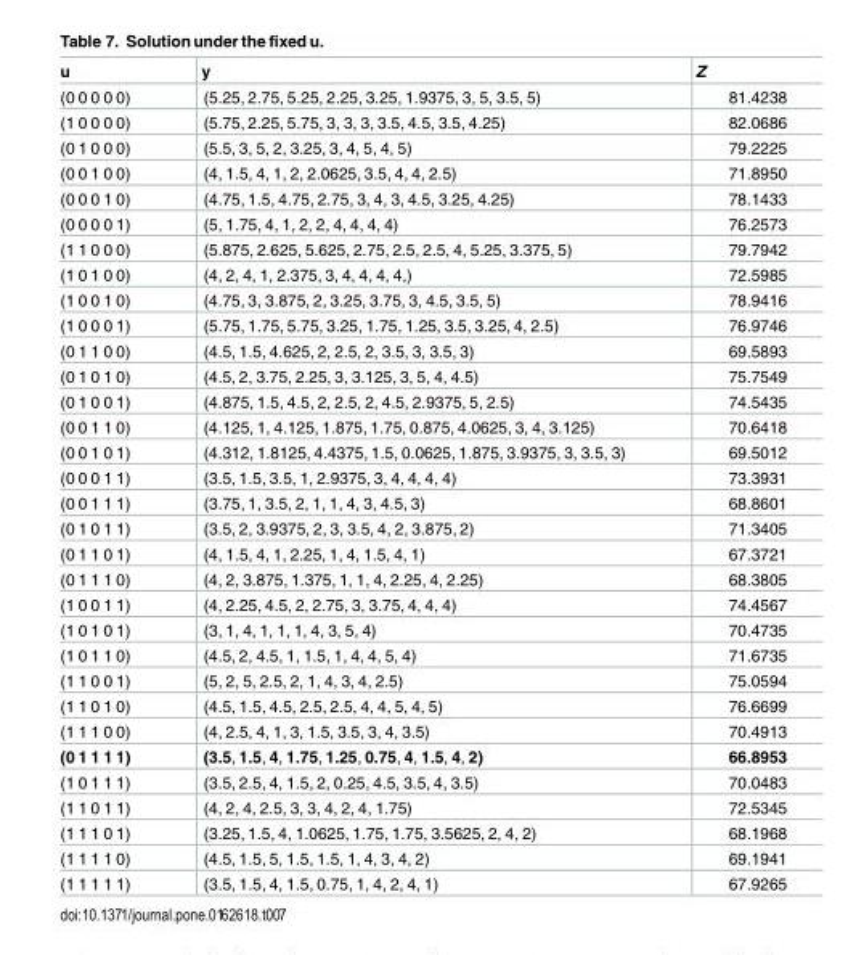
<table><thead><tr><td>u</td><td>y</td><td>Z</td></tr></thead><tbody><tr><td>(0 0 0 0 0)</td><td>(5.25, 2.75, 5.25, 2.25, 3.25, 1.9375, 3, 5, 3.5, 5)</td><td>81.4238</td></tr><tr><td>(1 0 0 0 0)</td><td>(5.75, 2.25, 5.75, 3, 3, 3, 3.5, 4.5, 3.5, 4.25)</td><td>82.0686</td></tr><tr><td>(0 1 0 0 0)</td><td>(5.5, 3, 5, 2, 3.25, 3, 4, 5, 4, 5)</td><td>79.2225</td></tr><tr><td>(0 0 1 0 0)</td><td>(4, 1.5, 4, 1, 2, 2.0625, 3.5, 4, 4, 2.5)</td><td>71.8950</td></tr><tr><td>(0 0 0 1 0)</td><td>(4.75, 1.5, 4.75, 2.75, 3, 4, 3, 4.5, 3.25, 4.25)</td><td>78.1433</td></tr><tr><td>(0 0 0 0 1)</td><td>(5, 1.75, 4, 1, 2, 2, 4, 4, 4, 4)</td><td>76.2573</td></tr><tr><td>(1 1 0 0 0)</td><td>(5.875, 2.625, 5.625, 2.75, 2.5, 2.5, 4, 5.25, 3.375, 5)</td><td>79.7942</td></tr><tr><td>(1 0 1 0 0)</td><td>(4, 2, 4, 1, 2.375, 3, 4, 4, 4, 4,)</td><td>72.5985</td></tr><tr><td>(1 0 0 1 0)</td><td>(4.75, 3, 3.875, 2, 3.25, 3.75, 3, 4.5, 3.5, 5)</td><td>78.9416</td></tr><tr><td>(1 0 0 0 1)</td><td>(5.75, 1.75, 5.75, 3.25, 1.75, 1.25, 3.5, 3.25, 4, 2.5)</td><td>76.9746</td></tr><tr><td>(0 1 1 0 0)</td><td>(4.5, 1.5, 4.625, 2, 2.5, 2, 3.5, 3, 3.5, 3)</td><td>69.5893</td></tr><tr><td>(0 1 0 1 0)</td><td>(4.5, 2, 3.75, 2.25, 3, 3.125, 3, 5, 4, 4.5)</td><td>75.7549</td></tr><tr><td>(0 1 0 0 1)</td><td>(4.875, 1.5, 4.5, 2, 2.5, 2, 4.5, 2.9375, 5, 2.5)</td><td>74.5435</td></tr><tr><td>(0 0 1 1 0)</td><td>(4.125, 1, 4.125, 1.875, 1.75, 0.875, 4.0625, 3, 4, 3.125)</td><td>70.6418</td></tr><tr><td>(0 0 1 0 1)</td><td>(4.312, 1.8125, 4.4375, 1.5, 0.0625, 1.875, 3.9375, 3, 3.5, 3)</td><td>69.5012</td></tr><tr><td>(0 0 0 1 1)</td><td>(3.5, 1.5, 3.5, 1, 2.9375, 3, 4, 4, 4, 4)</td><td>73.3931</td></tr><tr><td>(0 0 1 1 1)</td><td>(3.75, 1, 3.5, 2, 1, 1, 4, 3, 4.5, 3)</td><td>68.8601</td></tr><tr><td>(0 1 0 1 1)</td><td>(3.5, 2, 3.9375, 2, 3, 3.5, 4, 2, 3.875, 2)</td><td>71.3405</td></tr><tr><td>(0 1 1 0 1)</td><td>(4, 1.5, 4, 1, 2.25, 1, 4, 1.5, 4, 1)</td><td>67.3721</td></tr><tr><td>(0 1 1 1 0)</td><td>(4, 2, 3.875, 1.375, 1, 1, 4, 2.25, 4, 2.25)</td><td>68.3805</td></tr><tr><td>(1 0 0 1 1)</td><td>(4, 2.25, 4.5, 2, 2.75, 3, 3.75, 4, 4, 4)</td><td>74.4567</td></tr><tr><td>(1 0 1 0 1)</td><td>(3, 1, 4, 1, 1, 1, 4, 3, 5, 4)</td><td>70.4735</td></tr><tr><td>(1 0 1 1 0)</td><td>(4.5, 2, 4.5, 1, 1.5, 1, 4, 4, 5, 4)</td><td>71.6735</td></tr><tr><td>(1 1 0 0 1)</td><td>(5, 2, 5, 2.5, 2, 1, 4, 3, 4, 2.5)</td><td>75.0594</td></tr><tr><td>(1 1 0 1 0)</td><td>(4.5, 1.5, 4.5, 2.5, 2.5, 4, 4, 5, 4, 5)</td><td>76.6699</td></tr><tr><td>(1 1 1 0 0)</td><td>(4, 2.5, 4, 1, 3, 1.5, 3.5, 3, 4, 3.5)</td><td>70.4913</td></tr><tr><td>(0 1 1 1 1)</td><td>(3.5, 1.5, 4, 1.75, 1.25, 0.75, 4, 1.5, 4, 2)</td><td>66.8953</td></tr><tr><td>(1 0 1 1 1)</td><td>(3.5, 2.5, 4, 1.5, 2, 0.25, 4.5, 3.5, 4, 3.5)</td><td>70.0483</td></tr><tr><td>(1 1 0 1 1)</td><td>(4, 2, 4, 2.5, 3, 3, 4, 2, 4, 1.75)</td><td>72.5345</td></tr><tr><td>(1 1 1 0 1)</td><td>(3.25, 1.5, 4, 1.0625, 1.75, 1.75, 3.5625, 2, 4, 2)</td><td>68.1968</td></tr><tr><td>(1 1 1 1 0)</td><td>(4.5, 1.5, 5, 1.5, 1.5, 1, 4, 3, 4, 2)</td><td>69.1941</td></tr><tr><td>(1 1 1 1 1)</td><td>(3.5, 1.5, 4, 1.5, 0.75, 1, 4, 2, 4, 1)</td><td>67.9265</td></tr></tbody></table>